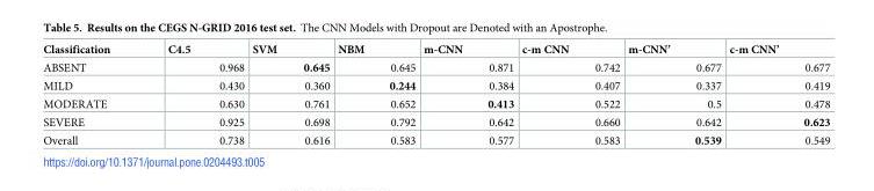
<table><thead><tr><td>Classification</td><td>C4.5</td><td>SVM</td><td>NBM</td><td>m-CNN</td><td>c-m CNN</td><td>m-CNN’</td><td>c-m CNN’</td></tr></thead><tbody><tr><td>ABSENT</td><td>0.968</td><td>0.645</td><td>0.645</td><td>0.871</td><td>0.742</td><td>0.677</td><td>0.677</td></tr><tr><td>MILD</td><td>0.430</td><td>0.360</td><td>0.244</td><td>0.384</td><td>0.407</td><td>0.337</td><td>0.419</td></tr><tr><td>MODERATE</td><td>0.630</td><td>0.761</td><td>0.652</td><td>0.413</td><td>0.522</td><td>0.5</td><td>0.478</td></tr><tr><td>SEVERE</td><td>0.925</td><td>0.698</td><td>0.792</td><td>0.642</td><td>0.660</td><td>0.642</td><td>0.623</td></tr><tr><td>Overall</td><td>0.738</td><td>0.616</td><td>0.583</td><td>0.577</td><td>0.583</td><td>0.539</td><td>0.549</td></tr></tbody></table>